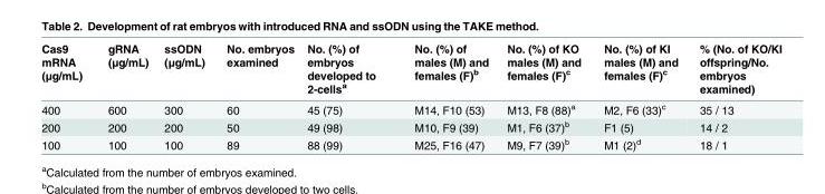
<table><thead><tr><td>Cas9 mRNA (μg/mL)</td><td>gRNA (μg/mL)</td><td>ssODN (μg/mL)</td><td>No. embryos examined</td><td>No. (%) of embryos developed to 2-cells<sup>a</sup></td><td>No. (%) of males (M) and females (F)<sup>b</sup></td><td>No. (%) of KO males (M) and females (F)<sup>c</sup></td><td>No. (%) of KI males (M) and females (F)<sup>c</sup></td><td>% (No. of KO/KI offspring/No. embryos examined)</td></tr></thead><tbody><tr><td>400</td><td>600</td><td>300</td><td>60</td><td>45 (75)</td><td>M14, F10 (53)</td><td>M13, F8 (88)<sup>a</sup></td><td>M2, F6 (33)<sup>c</sup></td><td>35 / 13</td></tr><tr><td>200</td><td>200</td><td>200</td><td>50</td><td>49 (98)</td><td>M10, F9 (39)</td><td>M1, F6 (37)<sup>b</sup></td><td>F1 (5)</td><td>14 / 2</td></tr><tr><td>100</td><td>100</td><td>100</td><td>89</td><td>88 (99)</td><td>M25, F16 (47)</td><td>M9, F7 (39)<sup>b</sup></td><td>M1 (2)<sup>d</sup></td><td>18 / 1</td></tr></tbody></table>